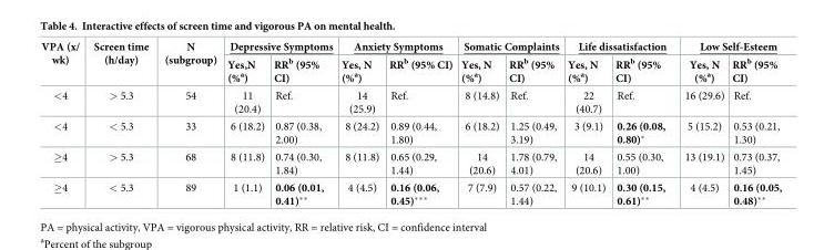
<table><thead><tr><td rowspan="2">VPA (x/ wk)</td><td rowspan="2">Screen time (h/day)</td><td rowspan="2">N (subgroup)</td><td colspan="2">Depressive Symptoms</td><td colspan="2">Anxiety Symptoms</td><td colspan="2">Somatic Complaints</td><td colspan="2">Life dissatisfaction</td><td colspan="2">Low Self-Esteem</td></tr><tr><td>Yes,N (%<sup>a</sup>)</td><td>RR<sup>b</sup> (95% CI)</td><td>Yes, N (%<sup>a</sup>)</td><td>RR<sup>b</sup> (95% CI)</td><td>Yes, N (%<sup>a</sup>)</td><td>RR<sup>b</sup> (95% CI)</td><td>Yes, N (%<sup>a</sup>)</td><td>RR<sup>b</sup> (95% CI)</td><td>Yes, N (%<sup>a</sup>)</td><td>RR<sup>b</sup> (95% CI)</td></tr></thead><tbody><tr><td>&lt;4</td><td>&gt; 5.3</td><td>54</td><td>11 (20.4)</td><td>Ref.</td><td>14 (25.9)</td><td>Ref.</td><td>8 (14.8)</td><td>Ref.</td><td>22 (40.7)</td><td>Ref.</td><td>16 (29.6)</td><td>Ref.</td></tr><tr><td>&lt;4</td><td>&lt; 5.3</td><td>33</td><td>6 (18.2)</td><td>0.87 (0.38, 2.00)</td><td>8 (24.2)</td><td>0.89 (0.44, 1.80)</td><td>6 (18.2)</td><td>1.25 (0.49, 3.19)</td><td>3 (9.1)</td><td>0.26 (0.08, 0.80)*</td><td>5 (15.2)</td><td>0.53 (0.21, 1.30)</td></tr><tr><td>≥4</td><td>&gt; 5.3</td><td>68</td><td>8 (11.8)</td><td>0.74 (0.30, 1.84)</td><td>8 (11.8)</td><td>0.65 (0.29, 1.44)</td><td>14 (20.6)</td><td>1.78 (0.79, 4.01)</td><td>14 (20.6)</td><td>0.55 (0.30, 1.00)</td><td>13 (19.1)</td><td>0.73 (0.37, 1.45)</td></tr><tr><td>≥4</td><td>&lt; 5.3</td><td>89</td><td>1 (1.1)</td><td>0.06 (0.01, 0.41)**</td><td>4 (4.5)</td><td>0.16 (0.06, 0.45)***</td><td>7 (7.9)</td><td>0.57 (0.22, 1.44)</td><td>9 (10.1)</td><td>0.30 (0.15, 0.61)**</td><td>4 (4.5)</td><td>0.16 (0.05, 0.48)**</td></tr></tbody></table>